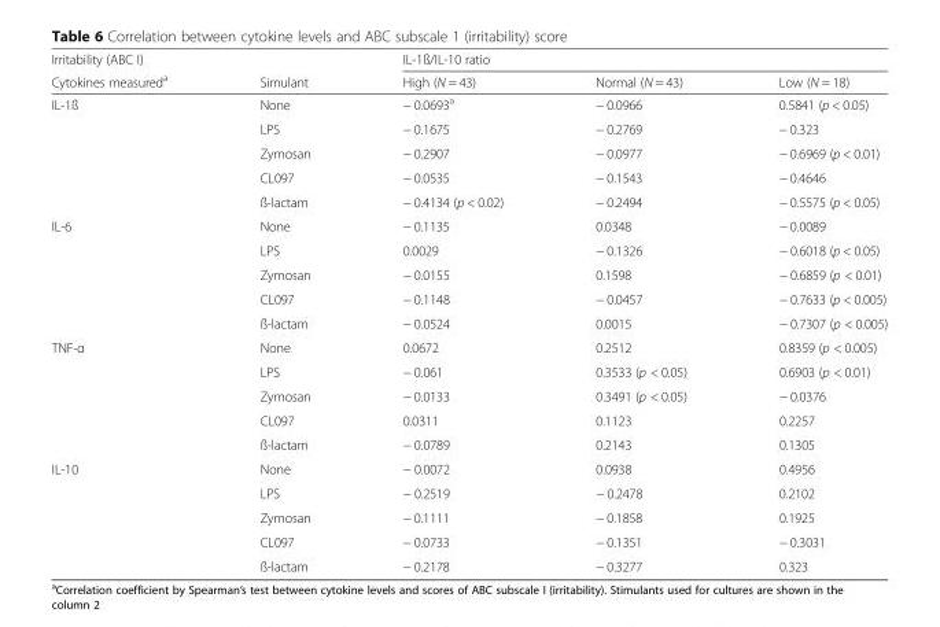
<table><thead><tr><td rowspan="2">Irritability (ABC I) Cytokines measured<sup>a</sup></td><td rowspan="2">Simulant</td><td colspan="3">IL-1ß/IL-10 ratio</td></tr><tr><td>High (N = 43)</td><td>Normal (N = 43)</td><td>Low (N = 18)</td></tr></thead><tbody><tr><td rowspan="5">IL-1ß</td><td>None</td><td>− 0.0693<sup>a</sup></td><td>− 0.0966</td><td>0.5841 (p &lt; 0.05)</td></tr><tr><td>LPS</td><td>− 0.1675</td><td>− 0.2769</td><td>− 0.323</td></tr><tr><td>Zymosan</td><td>− 0.2907</td><td>− 0.0977</td><td>− 0.6969 (p &lt; 0.01)</td></tr><tr><td>CL097</td><td>− 0.0535</td><td>− 0.1543</td><td>− 0.4646</td></tr><tr><td>ß-lactam</td><td>− 0.4134 (p &lt; 0.02)</td><td>− 0.2494</td><td>− 0.5575 (p &lt; 0.05)</td></tr><tr><td rowspan="5">IL-6</td><td>None</td><td>− 0.1135</td><td>0.0348</td><td>− 0.0089</td></tr><tr><td>LPS</td><td>0.0029</td><td>− 0.1326</td><td>− 0.6018 (p &lt; 0.05)</td></tr><tr><td>Zymosan</td><td>− 0.0155</td><td>0.1598</td><td>− 0.6859 (p &lt; 0.01)</td></tr><tr><td>CL097</td><td>− 0.1148</td><td>− 0.0457</td><td>− 0.7633 (p &lt; 0.005)</td></tr><tr><td>ß-lactam</td><td>− 0.0524</td><td>0.0015</td><td>− 0.7307 (p &lt; 0.005)</td></tr><tr><td rowspan="5">TNF-α</td><td>None</td><td>0.0672</td><td>0.2512</td><td>0.8359 (p &lt; 0.005)</td></tr><tr><td>LPS</td><td>− 0.061</td><td>0.3533 (p &lt; 0.05)</td><td>0.6903 (p &lt; 0.01)</td></tr><tr><td>Zymosan</td><td>− 0.0133</td><td>0.3491 (p &lt; 0.05)</td><td>− 0.0376</td></tr><tr><td>CL097</td><td>0.0311</td><td>0.1123</td><td>0.2257</td></tr><tr><td>ß-lactam</td><td>− 0.0789</td><td>0.2143</td><td>0.1305</td></tr><tr><td rowspan="5">IL-10</td><td>None</td><td>− 0.0072</td><td>0.0938</td><td>0.4956</td></tr><tr><td>LPS</td><td>− 0.2519</td><td>− 0.2478</td><td>0.2102</td></tr><tr><td>Zymosan</td><td>− 0.1111</td><td>− 0.1858</td><td>0.1925</td></tr><tr><td>CL097</td><td>− 0.0733</td><td>− 0.1351</td><td>− 0.3031</td></tr><tr><td>ß-lactam</td><td>− 0.2178</td><td>− 0.3277</td><td>0.323</td></tr></tbody></table>